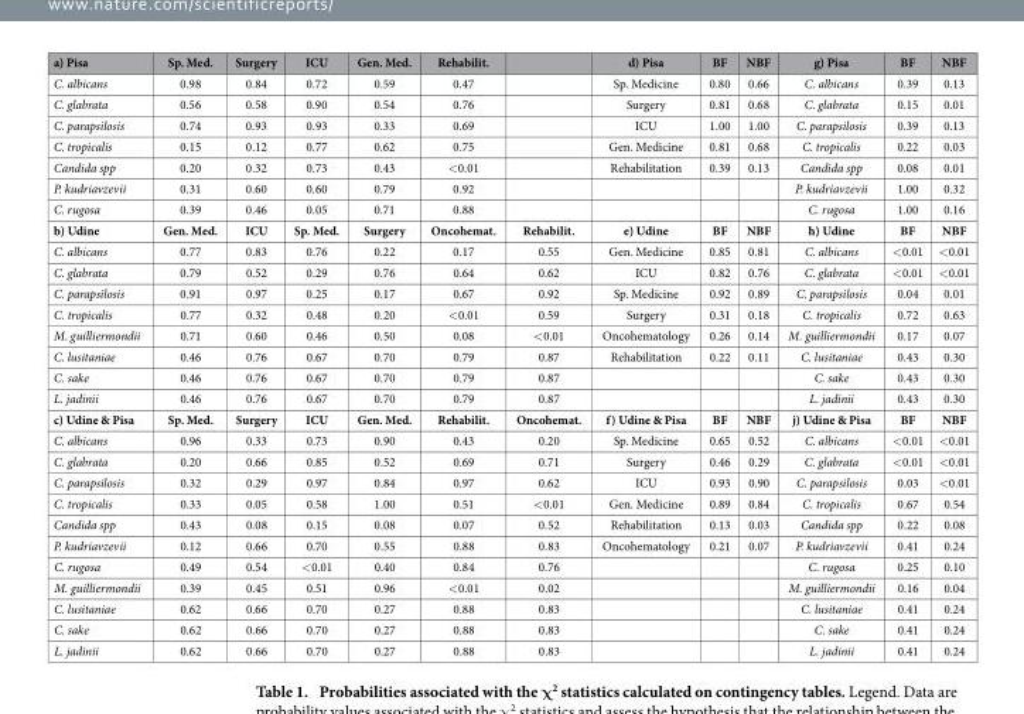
<table><thead><tr><td>a) Pisa</td><td>Sp. Med.</td><td>Surgery</td><td>ICU</td><td>Gen. Med.</td><td>Rehabilit.</td><td></td><td>d) Pisa</td><td>BF</td><td>NBF</td><td>g) Pisa</td><td>BF</td><td>NBF</td></tr></thead><tbody><tr><td>C. albicans</td><td>0.98</td><td>0.84</td><td>0.72</td><td>0.59</td><td>0.47</td><td></td><td>Sp. Medicine</td><td>0.80</td><td>0.66</td><td>C. albicans</td><td>0.39</td><td>0.13</td></tr><tr><td>C. glabrata</td><td>0.56</td><td>0.58</td><td>0.90</td><td>0.54</td><td>0.76</td><td></td><td>Surgery</td><td>0.81</td><td>0.68</td><td>C. glabrata</td><td>0.15</td><td>0.01</td></tr><tr><td>C. parapsilosis</td><td>0.74</td><td>0.93</td><td>0.93</td><td>0.33</td><td>0.69</td><td></td><td>ICU</td><td>1.00</td><td>1.00</td><td>C. parapsilosis</td><td>0.39</td><td>0.13</td></tr><tr><td>C. tropicalis</td><td>0.15</td><td>0.12</td><td>0.77</td><td>0.62</td><td>0.75</td><td></td><td>Gen. Medicine</td><td>0.81</td><td>0.68</td><td>C. tropicalis</td><td>0.22</td><td>0.03</td></tr><tr><td>Candida spp</td><td>0.20</td><td>0.32</td><td>0.73</td><td>0.43</td><td>&lt; 0.01</td><td></td><td>Rehabilitation</td><td>0.39</td><td>0.13</td><td>Candida spp</td><td>0.08</td><td>0.01</td></tr><tr><td>P. kudriavzevii</td><td>0.31</td><td>0.60</td><td>0.60</td><td>0.79</td><td>0.92</td><td></td><td></td><td></td><td></td><td>P. kudriavzevii</td><td>1.00</td><td>0.32</td></tr><tr><td>C. rugosa</td><td>0.39</td><td>0.46</td><td>0.05</td><td>0.71</td><td>0.88</td><td></td><td></td><td></td><td></td><td>C. rugosa</td><td>1.00</td><td>0.16</td></tr><tr><td>b) Udine</td><td>Gen. Med.</td><td>ICU</td><td>Sp. Med.</td><td>Surgery</td><td>Oncohemat.</td><td>Rehabilit.</td><td>e) Udine</td><td>BF</td><td>NBF</td><td>h) Udine</td><td>BF</td><td>NBF</td></tr><tr><td>C. albicans</td><td>0.77</td><td>0.83</td><td>0.76</td><td>0.22</td><td>0.17</td><td>0.55</td><td>Gen. Medicine</td><td>0.85</td><td>0.81</td><td>C. albicans</td><td>&lt; 0.01</td><td>&lt; 0.01</td></tr><tr><td>C. glabrata</td><td>0.79</td><td>0.52</td><td>0.29</td><td>0.76</td><td>0.64</td><td>0.62</td><td>ICU</td><td>0.82</td><td>0.76</td><td>C. glabrata</td><td>&lt; 0.01</td><td>&lt; 0.01</td></tr><tr><td>C. parapsilosis</td><td>0.91</td><td>0.97</td><td>0.25</td><td>0.17</td><td>0.67</td><td>0.92</td><td>Sp. Medicine</td><td>0.92</td><td>0.89</td><td>C. parapsilosis</td><td>0.04</td><td>0.01</td></tr><tr><td>C. tropicalis</td><td>0.77</td><td>0.32</td><td>0.48</td><td>0.20</td><td>&lt; 0.01</td><td>0.59</td><td>Surgery</td><td>0.31</td><td>0.18</td><td>C. tropicalis</td><td>0.72</td><td>0.63</td></tr><tr><td>M. guilliermondii</td><td>0.71</td><td>0.60</td><td>0.46</td><td>0.50</td><td>0.08</td><td>&lt; 0.01</td><td>Oncohematology</td><td>0.26</td><td>0.14</td><td>M. guilliermondii</td><td>0.17</td><td>0.07</td></tr><tr><td>C. lusitaniae</td><td>0.46</td><td>0.76</td><td>0.67</td><td>0.70</td><td>0.79</td><td>0.87</td><td>Rehabilitation</td><td>0.22</td><td>0.11</td><td>C. lusitaniae</td><td>0.43</td><td>0.30</td></tr><tr><td>C. sake</td><td>0.46</td><td>0.76</td><td>0.67</td><td>0.70</td><td>0.79</td><td>0.87</td><td></td><td></td><td></td><td>C. sake</td><td>0.43</td><td>0.30</td></tr><tr><td>L. jadinii</td><td>0.46</td><td>0.76</td><td>0.67</td><td>0.70</td><td>0.79</td><td>0.87</td><td></td><td></td><td></td><td>L. jadinii</td><td>0.43</td><td>0.30</td></tr><tr><td>c) Udine &amp; Pisa</td><td>Sp. Med.</td><td>Surgery</td><td>ICU</td><td>Gen. Med.</td><td>Rehabilit.</td><td>Oncohemat.</td><td>f) Udine &amp; Pisa</td><td>BF</td><td>NBF</td><td>j) Udine &amp; Pisa</td><td>BF</td><td>NBF</td></tr><tr><td>C. albicans</td><td>0.96</td><td>0.33</td><td>0.73</td><td>0.90</td><td>0.43</td><td>0.20</td><td>Sp. Medicine</td><td>0.65</td><td>0.52</td><td>C. albicans</td><td>&lt; 0.01</td><td>&lt; 0.01</td></tr><tr><td>C. glabrata</td><td>0.20</td><td>0.66</td><td>0.85</td><td>0.52</td><td>0.69</td><td>0.71</td><td>Surgery</td><td>0.46</td><td>0.29</td><td>C. glabrata</td><td>&lt; 0.01</td><td>&lt; 0.01</td></tr><tr><td>C. parapsilosis</td><td>0.32</td><td>0.29</td><td>0.97</td><td>0.84</td><td>0.97</td><td>0.62</td><td>ICU</td><td>0.93</td><td>0.90</td><td>C. parapsilosis</td><td>0.03</td><td>&lt; 0.01</td></tr><tr><td>C. tropicalis</td><td>0.33</td><td>0.05</td><td>0.58</td><td>1.00</td><td>0.51</td><td>&lt; 0.01</td><td>Gen. Medicine</td><td>0.89</td><td>0.84</td><td>C. tropicalis</td><td>0.67</td><td>0.54</td></tr><tr><td>Candida spp</td><td>0.43</td><td>0.08</td><td>0.15</td><td>0.08</td><td>0.07</td><td>0.52</td><td>Rehabilitation</td><td>0.13</td><td>0.03</td><td>Candida spp</td><td>0.22</td><td>0.08</td></tr><tr><td>P. kudriavzevii</td><td>0.12</td><td>0.66</td><td>0.70</td><td>0.55</td><td>0.88</td><td>0.83</td><td>Oncohematology</td><td>0.21</td><td>0.07</td><td>P. kudriavzevii</td><td>0.41</td><td>0.24</td></tr><tr><td>C. rugosa</td><td>0.49</td><td>0.54</td><td>&lt; 0.01</td><td>0.40</td><td>0.84</td><td>0.76</td><td></td><td></td><td></td><td>C. rugosa</td><td>0.25</td><td>0.10</td></tr><tr><td>M. guilliermondii</td><td>0.39</td><td>0.45</td><td>0.51</td><td>0.96</td><td>&lt; 0.01</td><td>0.02</td><td></td><td></td><td></td><td>M. guilliermondii</td><td>0.16</td><td>0.04</td></tr><tr><td>C. lusitaniae</td><td>0.62</td><td>0.66</td><td>0.70</td><td>0.27</td><td>0.88</td><td>0.83</td><td></td><td></td><td></td><td>C. lusitaniae</td><td>0.41</td><td>0.24</td></tr><tr><td>C. sake</td><td>0.62</td><td>0.66</td><td>0.70</td><td>0.27</td><td>0.88</td><td>0.83</td><td></td><td></td><td></td><td>C. sake</td><td>0.41</td><td>0.24</td></tr><tr><td>L. jadinii</td><td>0.62</td><td>0.66</td><td>0.70</td><td>0.27</td><td>0.88</td><td>0.83</td><td></td><td></td><td></td><td>L. jadinii</td><td>0.41</td><td>0.24</td></tr></tbody></table>